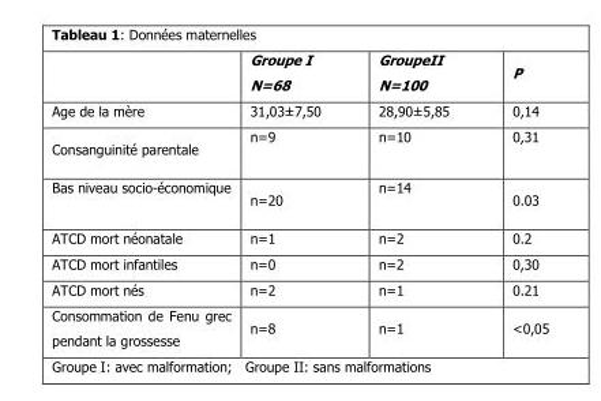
<table><thead><tr><td></td><td>Groupe I N=68</td><td>GroupeII N=100</td><td>P</td></tr></thead><tbody><tr><td>Age de la mère</td><td>31,03±7,50</td><td>28,90±5,85</td><td>0,14</td></tr><tr><td>Consanguinité parentale</td><td>n=9</td><td>n=10</td><td>0,31</td></tr><tr><td>Bas niveau socio-économique</td><td>n=20</td><td>n=14</td><td>0.03</td></tr><tr><td>ATCD mort néonatale</td><td>n=1</td><td>n=2</td><td>0.2</td></tr><tr><td>ATCD mort infantiles</td><td>n=0</td><td>n=2</td><td>0,30</td></tr><tr><td>ATCD mort nés</td><td>n=2</td><td>n=1</td><td>0.21</td></tr><tr><td>Consommation de Fenu grec pendant la grossesse</td><td>n=8</td><td>n=1</td><td>&lt;0,05</td></tr></tbody></table>